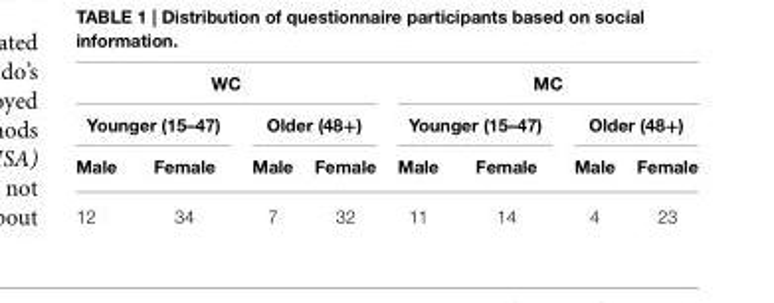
<table><thead><tr><td colspan="4">WC</td><td colspan="4">MC</td></tr><tr><td colspan="2">Younger (15–47)</td><td colspan="2">Older (48+)</td><td colspan="2">Younger (15–47)</td><td colspan="2">Older (48+)</td></tr><tr><td>Male</td><td>Female</td><td>Male</td><td>Female</td><td>Male</td><td>Female</td><td>Male</td><td>Female</td></tr></thead><tbody><tr><td>12</td><td>34</td><td>7</td><td>32</td><td>11</td><td>14</td><td>4</td><td>23</td></tr></tbody></table>